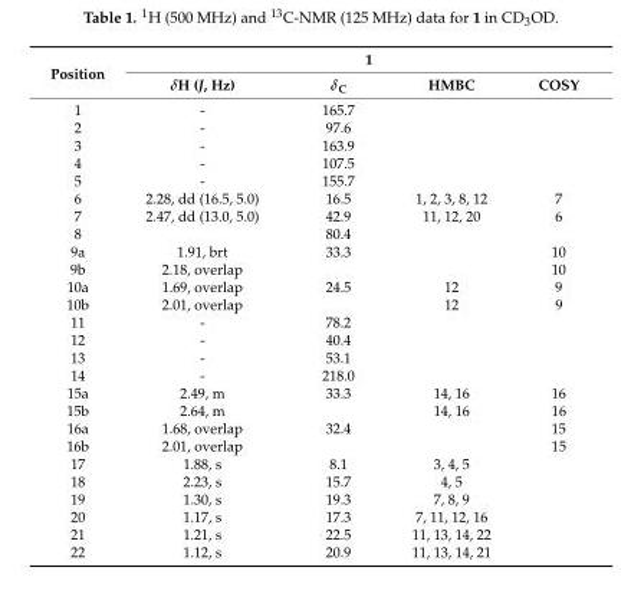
<table><thead><tr><td rowspan="2">Position</td><td colspan="4">1</td></tr><tr><td>δH (J, Hz)</td><td>δ<sub>C</sub></td><td>HMBC</td><td>COSY</td></tr></thead><tbody><tr><td>1</td><td>-</td><td>165.7</td><td></td><td></td></tr><tr><td>2</td><td>-</td><td>97.6</td><td></td><td></td></tr><tr><td>3</td><td>-</td><td>163.9</td><td></td><td></td></tr><tr><td>4</td><td>-</td><td>107.5</td><td></td><td></td></tr><tr><td>5</td><td>-</td><td>155.7</td><td></td><td></td></tr><tr><td>6</td><td>2.28, dd (16.5, 5.0)</td><td>16.5</td><td>1, 2, 3, 8, 12</td><td>7</td></tr><tr><td>7</td><td>2.47, dd (13.0, 5.0)</td><td>42.9</td><td>11, 12, 20</td><td>6</td></tr><tr><td>8</td><td></td><td>80.4</td><td></td><td></td></tr><tr><td>9a</td><td>1.91, brt</td><td>33.3</td><td></td><td>10</td></tr><tr><td>9b</td><td>2.18, overlap</td><td></td><td></td><td>10</td></tr><tr><td>10a</td><td>1.69, overlap</td><td>24.5</td><td>12</td><td>9</td></tr><tr><td>10b</td><td>2.01, overlap</td><td></td><td>12</td><td>9</td></tr><tr><td>11</td><td>-</td><td>78.2</td><td></td><td></td></tr><tr><td>12</td><td>-</td><td>40.4</td><td></td><td></td></tr><tr><td>13</td><td>-</td><td>53.1</td><td></td><td></td></tr><tr><td>14</td><td>-</td><td>218.0</td><td></td><td></td></tr><tr><td>15a</td><td>2.49, m</td><td>33.3</td><td>14, 16</td><td>16</td></tr><tr><td>15b</td><td>2.64, m</td><td></td><td>14, 16</td><td>16</td></tr><tr><td>16a</td><td>1.68, overlap</td><td>32.4</td><td></td><td>15</td></tr><tr><td>16b</td><td>2.01, overlap</td><td></td><td></td><td>15</td></tr><tr><td>17</td><td>1.88, s</td><td>8.1</td><td>3, 4, 5</td><td></td></tr><tr><td>18</td><td>2.23, s</td><td>15.7</td><td>4, 5</td><td></td></tr><tr><td>19</td><td>1.30, s</td><td>19.3</td><td>7, 8, 9</td><td></td></tr><tr><td>20</td><td>1.17, s</td><td>17.3</td><td>7, 11, 12, 16</td><td></td></tr><tr><td>21</td><td>1.21, s</td><td>22.5</td><td>11, 13, 14, 22</td><td></td></tr><tr><td>22</td><td>1.12, s</td><td>20.9</td><td>11, 13, 14, 21</td><td></td></tr></tbody></table>